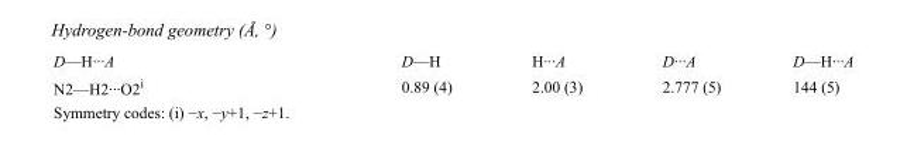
<table><tbody><tr><td>D—H···A</td><td>D—H</td><td>H···A</td><td>D···A</td><td>D—H···A</td></tr><tr><td>N2—H2···O2<sup>i</sup></td><td>0.89 (4)</td><td>2.00 (3)</td><td>2.777 (5)</td><td>144 (5)</td></tr></tbody></table>